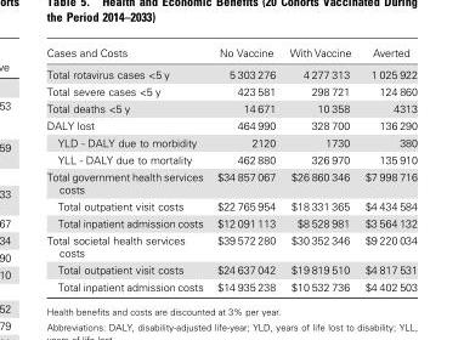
<table><thead><tr><td>Cases and Costs</td><td>No Vaccine</td><td>With Vaccine</td><td>Averted</td></tr></thead><tbody><tr><td>Total rotavirus cases &lt;5 y</td><td>5 303 276</td><td>4 277 313</td><td>1 025 922</td></tr><tr><td>Total severe cases &lt;5 y</td><td>423 581</td><td>298 721</td><td>124 860</td></tr><tr><td>Total deaths &lt;5 y</td><td>14 671</td><td>10 358</td><td>4313</td></tr><tr><td>DALY lost</td><td>464 990</td><td>328 700</td><td>136 290</td></tr><tr><td>YLD - DALY due to morbidity</td><td>2120</td><td>1730</td><td>380</td></tr><tr><td>YLL - DALY due to mortality</td><td>462 880</td><td>326 970</td><td>135 910</td></tr><tr><td>Total government health services costs</td><td>$34 857 067</td><td>$26 860 346</td><td>$7 998 716</td></tr><tr><td>Total outpatient visit costs</td><td>$22 765 954</td><td>$18 331 365</td><td>$4 434 584</td></tr><tr><td>Total inpatient admission costs</td><td>$12 091 113</td><td>$8 528 981</td><td>$3 564 132</td></tr><tr><td>Total societal health services costs</td><td>$39 572 280</td><td>$30 352 346</td><td>$9 220 034</td></tr><tr><td>Total outpatient visit costs</td><td>$24 637 042</td><td>$19 819 510</td><td>$4 817 531</td></tr><tr><td>Total inpatient admission costs</td><td>$14 935 238</td><td>$10 532 736</td><td>$4 402 503</td></tr></tbody></table>